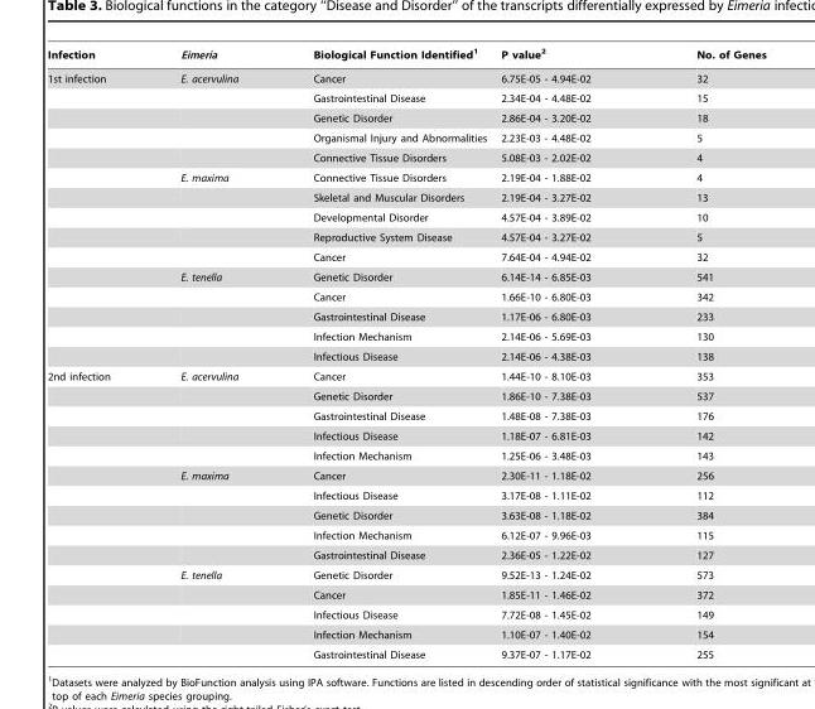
<table><thead><tr><td>Infection</td><td>Eimeria</td><td>Biological Function Identified<sup>1</sup></td><td>P value<sup>2</sup></td><td>No. of Genes</td></tr></thead><tbody><tr><td rowspan="15">1st infection</td><td>E. acervulina</td><td>Cancer</td><td>6.75E-05 - 4.94E-02</td><td>32</td></tr><tr><td></td><td>Gastrointestinal Disease</td><td>2.34E-04 - 4.48E-02</td><td>15</td></tr><tr><td></td><td>Genetic Disorder</td><td>2.86E-04 - 3.20E-02</td><td>18</td></tr><tr><td></td><td>Organismal Injury and Abnormalities</td><td>2.23E-03 - 4.48E-02</td><td>5</td></tr><tr><td></td><td>Connective Tissue Disorders</td><td>5.08E-03 - 2.02E-02</td><td>4</td></tr><tr><td>E. maxima</td><td>Connective Tissue Disorders</td><td>2.19E-04 - 1.88E-02</td><td>4</td></tr><tr><td></td><td>Skeletal and Muscular Disorders</td><td>2.19E-04 - 3.27E-02</td><td>13</td></tr><tr><td></td><td>Developmental Disorder</td><td>4.57E-04 - 3.89E-02</td><td>10</td></tr><tr><td></td><td>Reproductive System Disease</td><td>4.57E-04 - 3.27E-02</td><td>5</td></tr><tr><td></td><td>Cancer</td><td>7.64E-04 - 4.94E-02</td><td>32</td></tr><tr><td>E. tenella</td><td>Genetic Disorder</td><td>6.14E-14 - 6.85E-03</td><td>541</td></tr><tr><td></td><td>Cancer</td><td>1.66E-10 - 6.80E-03</td><td>342</td></tr><tr><td></td><td>Gastrointestinal Disease</td><td>1.17E-06 - 6.80E-03</td><td>233</td></tr><tr><td></td><td>Infection Mechanism</td><td>2.14E-06 - 5.69E-03</td><td>130</td></tr><tr><td></td><td>Infectious Disease</td><td>2.14E-06 - 4.38E-03</td><td>138</td></tr><tr><td rowspan="15">2nd infection</td><td>E. acervulina</td><td>Cancer</td><td>1.44E-10 - 8.10E-03</td><td>353</td></tr><tr><td></td><td>Genetic Disorder</td><td>1.86E-10 - 7.38E-03</td><td>537</td></tr><tr><td></td><td>Gastrointestinal Disease</td><td>1.48E-08 - 7.38E-03</td><td>176</td></tr><tr><td></td><td>Infectious Disease</td><td>1.18E-07 - 6.81E-03</td><td>142</td></tr><tr><td></td><td>Infection Mechanism</td><td>1.25E-06 - 3.48E-03</td><td>143</td></tr><tr><td>E. maxima</td><td>Cancer</td><td>2.30E-11 - 1.18E-02</td><td>256</td></tr><tr><td></td><td>Infectious Disease</td><td>3.17E-08 - 1.11E-02</td><td>112</td></tr><tr><td></td><td>Genetic Disorder</td><td>3.63E-08 - 1.18E-02</td><td>384</td></tr><tr><td></td><td>Infection Mechanism</td><td>6.12E-07 - 9.96E-03</td><td>115</td></tr><tr><td></td><td>Gastrointestinal Disease</td><td>2.36E-05 - 1.22E-02</td><td>127</td></tr><tr><td>E. tenella</td><td>Genetic Disorder</td><td>9.52E-13 - 1.24E-02</td><td>573</td></tr><tr><td></td><td>Cancer</td><td>1.85E-11 - 1.46E-02</td><td>372</td></tr><tr><td></td><td>Infectious Disease</td><td>7.72E-08 - 1.45E-02</td><td>149</td></tr><tr><td></td><td>Infection Mechanism</td><td>1.10E-07 - 1.40E-02</td><td>154</td></tr><tr><td></td><td>Gastrointestinal Disease</td><td>9.37E-07 - 1.17E-02</td><td>255</td></tr></tbody></table>